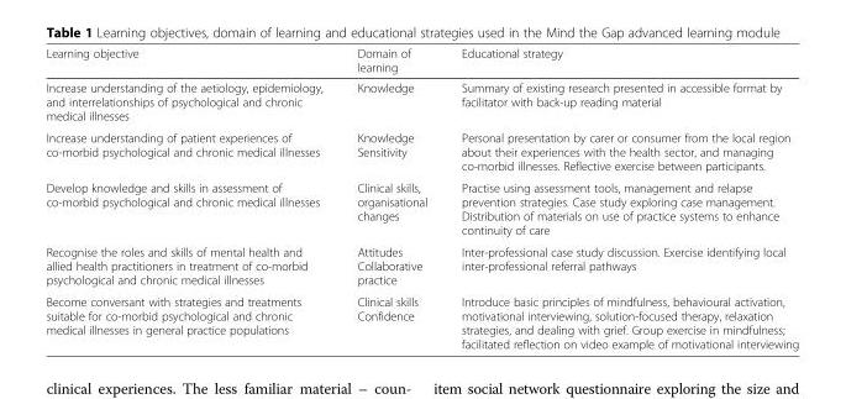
<table><thead><tr><td>Learning objective</td><td>Domain of learning</td><td>Educational strategy</td></tr></thead><tbody><tr><td>Increase understanding of the aetiology, epidemiology, and interrelationships of psychological and chronic medical illnesses</td><td>Knowledge</td><td>Summary of existing research presented in accessible format by facilitator with back-up reading material</td></tr><tr><td>Increase understanding of patient experiences of co-morbid psychological and chronic medical illnesses</td><td>Knowledge Sensitivity</td><td>Personal presentation by carer or consumer from the local region about their experiences with the health sector, and managing co-morbid illnesses. Reflective exercise between participants.</td></tr><tr><td>Develop knowledge and skills in assessment of co-morbid psychological and chronic medical illnesses</td><td>Clinical skills, organisational changes</td><td>Practise using assessment tools, management and relapse prevention strategies. Case study exploring case management. Distribution of materials on use of practice systems to enhance continuity of care</td></tr><tr><td>Recognise the roles and skills of mental health and allied health practitioners in treatment of co-morbid psychological and chronic medical illnesses</td><td>Attitudes Collaborative practice</td><td>Inter-professional case study discussion. Exercise identifying local inter-professional referral pathways</td></tr><tr><td>Become conversant with strategies and treatments suitable for co-morbid psychological and chronic medical illnesses in general practice populations</td><td>Clinical skills Confidence</td><td>Introduce basic principles of mindfulness, behavioural activation, motivational interviewing, solution-focused therapy, relaxation strategies, and dealing with grief. Group exercise in mindfulness; facilitated reflection on video example of motivational interviewing</td></tr></tbody></table>